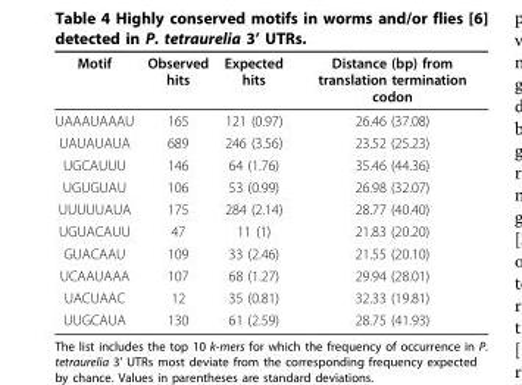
<table><thead><tr><td>Motif</td><td>Observed hits</td><td>Expected hits</td><td>Distance (bp) from translation termination codon</td></tr></thead><tbody><tr><td>UAAAUAAAU</td><td>165</td><td>121 (0.97)</td><td>26.46 (37.08)</td></tr><tr><td>UAUAUAUA</td><td>689</td><td>246 (3.56)</td><td>23.52 (25.23)</td></tr><tr><td>UGCAUUU</td><td>146</td><td>64 (1.76)</td><td>35.46 (44.36)</td></tr><tr><td>UGUGUAU</td><td>106</td><td>53 (0.99)</td><td>26.98 (32.07)</td></tr><tr><td>UUUUUAUA</td><td>175</td><td>284 (2.14)</td><td>28.77 (40.40)</td></tr><tr><td>UGUACAUU</td><td>47</td><td>11 (1)</td><td>21.83 (20.20)</td></tr><tr><td>GUACAAU</td><td>109</td><td>33 (2.46)</td><td>21.55 (20.10)</td></tr><tr><td>UCAAUAAA</td><td>107</td><td>68 (1.27)</td><td>29.94 (28.01)</td></tr><tr><td>UACUAAC</td><td>12</td><td>35 (0.81)</td><td>32.33 (19.81)</td></tr><tr><td>UUGCAUA</td><td>130</td><td>61 (2.59)</td><td>28.75 (41.93)</td></tr></tbody></table>